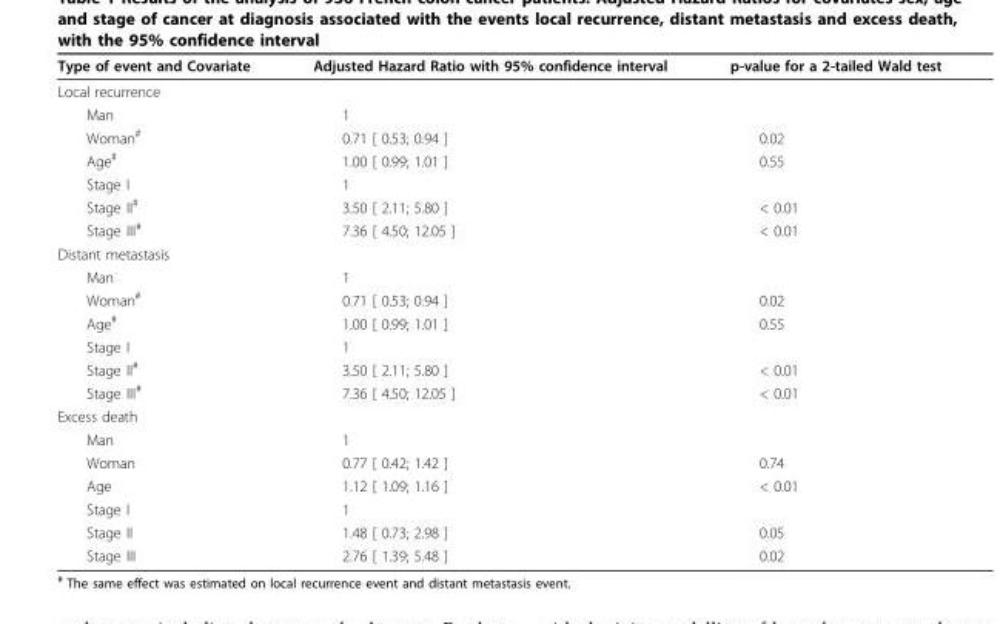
<table><thead><tr><td>Type of event and Covariate</td><td>Adjusted Hazard Ratio with 95% confidence interval</td><td>p-value for a 2-tailed Wald test</td></tr></thead><tbody><tr><td colspan="3">Local recurrence</td></tr><tr><td>Man</td><td>1</td><td></td></tr><tr><td>Woman<sup>#</sup></td><td>0.71 [ 0.53; 0.94 ]</td><td>0.02</td></tr><tr><td>Age<sup>#</sup></td><td>1.00 [ 0.99; 1.01 ]</td><td>0.55</td></tr><tr><td>Stage I</td><td>1</td><td></td></tr><tr><td>Stage II<sup>#</sup></td><td>3.50 [ 2.11; 5.80 ]</td><td>&lt; 0.01</td></tr><tr><td>Stage III<sup>#</sup></td><td>7.36 [ 4.50; 12.05 ]</td><td>&lt; 0.01</td></tr><tr><td colspan="3">Distant metastasis</td></tr><tr><td>Man</td><td>1</td><td></td></tr><tr><td>Woman<sup>#</sup></td><td>0.71 [ 0.53; 0.94 ]</td><td>0.02</td></tr><tr><td>Age<sup>#</sup></td><td>1.00 [ 0.99; 1.01 ]</td><td>0.55</td></tr><tr><td>Stage I</td><td>1</td><td></td></tr><tr><td>Stage II<sup>#</sup></td><td>3.50 [ 2.11; 5.80 ]</td><td>&lt; 0.01</td></tr><tr><td>Stage III<sup>#</sup></td><td>7.36 [ 4.50; 12.05 ]</td><td>&lt; 0.01</td></tr><tr><td colspan="3">Excess death</td></tr><tr><td>Man</td><td>1</td><td></td></tr><tr><td>Woman</td><td>0.77 [ 0.42; 1.42 ]</td><td>0.74</td></tr><tr><td>Age</td><td>1.12 [ 1.09; 1.16 ]</td><td>&lt; 0.01</td></tr><tr><td>Stage I</td><td>1</td><td></td></tr><tr><td>Stage II</td><td>1.48 [ 0.73; 2.98 ]</td><td>0.05</td></tr><tr><td>Stage III</td><td>2.76 [ 1.39; 5.48 ]</td><td>0.02</td></tr></tbody></table>